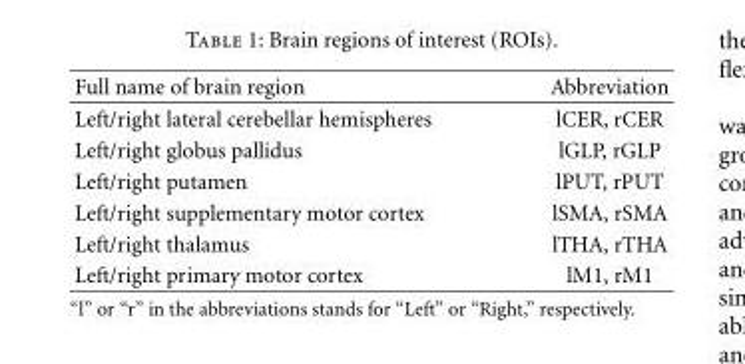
<table><thead><tr><td>Full name of brain region</td><td>Abbreviation</td></tr></thead><tbody><tr><td>Left/right lateral cerebellar hemispheres</td><td>lCER, rCER</td></tr><tr><td>Left/right globus pallidus</td><td>lGLP, rGLP</td></tr><tr><td>Left/right putamen</td><td>lPUT, rPUT</td></tr><tr><td>Left/right supplementary motor cortex</td><td>lSMA, rSMA</td></tr><tr><td>Left/right thalamus</td><td>lTHA, rTHA</td></tr><tr><td>Left/right primary motor cortex</td><td>lM1, rM1</td></tr></tbody></table>